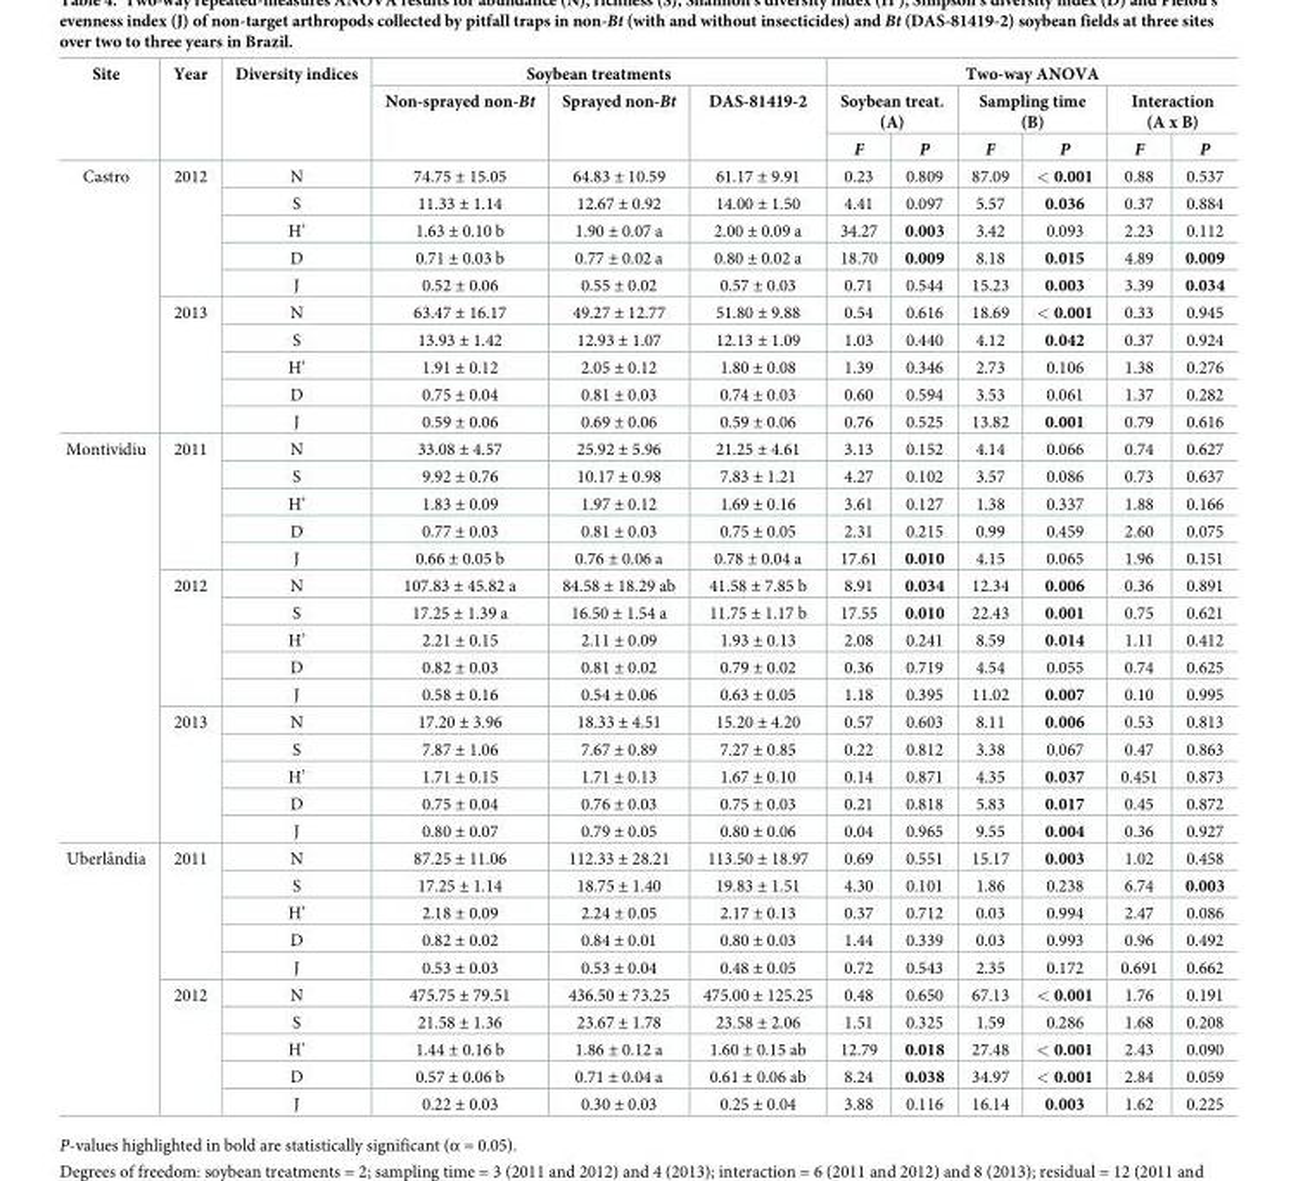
<table><thead><tr><td rowspan="3">Site</td><td rowspan="3">Year</td><td rowspan="3">Diversity indices</td><td colspan="3">Soybean treatments</td><td colspan="6">Two-way ANOVA</td></tr><tr><td rowspan="2">Non-sprayed non-Bt</td><td rowspan="2">Sprayed non-Bt</td><td rowspan="2">DAS-81419-2</td><td colspan="2">Soybean treat. (A)</td><td colspan="2">Sampling time (B)</td><td colspan="2">Interaction (A x B)</td></tr><tr><td>F</td><td>P</td><td>F</td><td>P</td><td>F</td><td>P</td></tr></thead><tbody><tr><td rowspan="10">Castro</td><td rowspan="5">2012</td><td>N</td><td>74.75 ± 15.05</td><td>64.83 ± 10.59</td><td>61.17 ± 9.91</td><td>0.23</td><td>0.809</td><td>87.09</td><td>&lt; 0.001</td><td>0.88</td><td>0.537</td></tr><tr><td>S</td><td>11.33 ± 1.14</td><td>12.67 ± 0.92</td><td>14.00 ± 1.50</td><td>4.41</td><td>0.097</td><td>5.57</td><td>0.036</td><td>0.37</td><td>0.884</td></tr><tr><td>H’</td><td>1.63 ± 0.10 b</td><td>1.90 ± 0.07 a</td><td>2.00 ± 0.09 a</td><td>34.27</td><td>0.003</td><td>3.42</td><td>0.093</td><td>2.23</td><td>0.112</td></tr><tr><td>D</td><td>0.71 ± 0.03 b</td><td>0.77 ± 0.02 a</td><td>0.80 ± 0.02 a</td><td>18.70</td><td>0.009</td><td>8.18</td><td>0.015</td><td>4.89</td><td>0.009</td></tr><tr><td>J</td><td>0.52 ± 0.06</td><td>0.55 ± 0.02</td><td>0.57 ± 0.03</td><td>0.71</td><td>0.544</td><td>15.23</td><td>0.003</td><td>3.39</td><td>0.034</td></tr><tr><td rowspan="5">2013</td><td>N</td><td>63.47 ± 16.17</td><td>49.27 ± 12.77</td><td>51.80 ± 9.88</td><td>0.54</td><td>0.616</td><td>18.69</td><td>&lt; 0.001</td><td>0.33</td><td>0.945</td></tr><tr><td>S</td><td>13.93 ± 1.42</td><td>12.93 ± 1.07</td><td>12.13 ± 1.09</td><td>1.03</td><td>0.440</td><td>4.12</td><td>0.042</td><td>0.37</td><td>0.924</td></tr><tr><td>H’</td><td>1.91 ± 0.12</td><td>2.05 ± 0.12</td><td>1.80 ± 0.08</td><td>1.39</td><td>0.346</td><td>2.73</td><td>0.106</td><td>1.38</td><td>0.276</td></tr><tr><td>D</td><td>0.75 ± 0.04</td><td>0.81 ± 0.03</td><td>0.74 ± 0.03</td><td>0.60</td><td>0.594</td><td>3.53</td><td>0.061</td><td>1.37</td><td>0.282</td></tr><tr><td>J</td><td>0.59 ± 0.06</td><td>0.69 ± 0.06</td><td>0.59 ± 0.06</td><td>0.76</td><td>0.525</td><td>13.82</td><td>0.001</td><td>0.79</td><td>0.616</td></tr><tr><td rowspan="15">Montividiu</td><td rowspan="5">2011</td><td>N</td><td>33.08 ± 4.57</td><td>25.92 ± 5.96</td><td>21.25 ± 4.61</td><td>3.13</td><td>0.152</td><td>4.14</td><td>0.066</td><td>0.74</td><td>0.627</td></tr><tr><td>S</td><td>9.92 ± 0.76</td><td>10.17 ± 0.98</td><td>7.83 ± 1.21</td><td>4.27</td><td>0.102</td><td>3.57</td><td>0.086</td><td>0.73</td><td>0.637</td></tr><tr><td>H’</td><td>1.83 ± 0.09</td><td>1.97 ± 0.12</td><td>1.69 ± 0.16</td><td>3.61</td><td>0.127</td><td>1.38</td><td>0.337</td><td>1.88</td><td>0.166</td></tr><tr><td>D</td><td>0.77 ± 0.03</td><td>0.81 ± 0.03</td><td>0.75 ± 0.05</td><td>2.31</td><td>0.215</td><td>0.99</td><td>0.459</td><td>2.60</td><td>0.075</td></tr><tr><td>J</td><td>0.66 ± 0.05 b</td><td>0.76 ± 0.06 a</td><td>0.78 ± 0.04 a</td><td>17.61</td><td>0.010</td><td>4.15</td><td>0.065</td><td>1.96</td><td>0.151</td></tr><tr><td rowspan="5">2012</td><td>N</td><td>107.83 ± 45.82 a</td><td>84.58 ± 18.29 ab</td><td>41.58 ± 7.85 b</td><td>8.91</td><td>0.034</td><td>12.34</td><td>0.006</td><td>0.36</td><td>0.891</td></tr><tr><td>S</td><td>17.25 ± 1.39 a</td><td>16.50 ± 1.54 a</td><td>11.75 ± 1.17 b</td><td>17.55</td><td>0.010</td><td>22.43</td><td>0.001</td><td>0.75</td><td>0.621</td></tr><tr><td>H’</td><td>2.21 ± 0.15</td><td>2.11 ± 0.09</td><td>1.93 ± 0.13</td><td>2.08</td><td>0.241</td><td>8.59</td><td>0.014</td><td>1.11</td><td>0.412</td></tr><tr><td>D</td><td>0.82 ± 0.03</td><td>0.81 ± 0.02</td><td>0.79 ± 0.02</td><td>0.36</td><td>0.719</td><td>4.54</td><td>0.055</td><td>0.74</td><td>0.625</td></tr><tr><td>J</td><td>0.58 ± 0.16</td><td>0.54 ± 0.06</td><td>0.63 ± 0.05</td><td>1.18</td><td>0.395</td><td>11.02</td><td>0.007</td><td>0.10</td><td>0.995</td></tr><tr><td rowspan="5">2013</td><td>N</td><td>17.20 ± 3.96</td><td>18.33 ± 4.51</td><td>15.20 ± 4.20</td><td>0.57</td><td>0.603</td><td>8.11</td><td>0.006</td><td>0.53</td><td>0.813</td></tr><tr><td>S</td><td>7.87 ± 1.06</td><td>7.67 ± 0.89</td><td>7.27 ± 0.85</td><td>0.22</td><td>0.812</td><td>3.38</td><td>0.067</td><td>0.47</td><td>0.863</td></tr><tr><td>H’</td><td>1.71 ± 0.15</td><td>1.71 ± 0.13</td><td>1.67 ± 0.10</td><td>0.14</td><td>0.871</td><td>4.35</td><td>0.037</td><td>0.451</td><td>0.873</td></tr><tr><td>D</td><td>0.75 ± 0.04</td><td>0.76 ± 0.03</td><td>0.75 ± 0.03</td><td>0.21</td><td>0.818</td><td>5.83</td><td>0.017</td><td>0.45</td><td>0.872</td></tr><tr><td>J</td><td>0.80 ± 0.07</td><td>0.79 ± 0.05</td><td>0.80 ± 0.06</td><td>0.04</td><td>0.965</td><td>9.55</td><td>0.004</td><td>0.36</td><td>0.927</td></tr><tr><td rowspan="10">Uberlaˆndia</td><td rowspan="5">2011</td><td>N</td><td>87.25 ± 11.06</td><td>112.33 ± 28.21</td><td>113.50 ± 18.97</td><td>0.69</td><td>0.551</td><td>15.17</td><td>0.003</td><td>1.02</td><td>0.458</td></tr><tr><td>S</td><td>17.25 ± 1.14</td><td>18.75 ± 1.40</td><td>19.83 ± 1.51</td><td>4.30</td><td>0.101</td><td>1.86</td><td>0.238</td><td>6.74</td><td>0.003</td></tr><tr><td>H’</td><td>2.18 ± 0.09</td><td>2.24 ± 0.05</td><td>2.17 ± 0.13</td><td>0.37</td><td>0.712</td><td>0.03</td><td>0.994</td><td>2.47</td><td>0.086</td></tr><tr><td>D</td><td>0.82 ± 0.02</td><td>0.84 ± 0.01</td><td>0.80 ± 0.03</td><td>1.44</td><td>0.339</td><td>0.03</td><td>0.993</td><td>0.96</td><td>0.492</td></tr><tr><td>J</td><td>0.53 ± 0.03</td><td>0.53 ± 0.04</td><td>0.48 ± 0.05</td><td>0.72</td><td>0.543</td><td>2.35</td><td>0.172</td><td>0.691</td><td>0.662</td></tr><tr><td rowspan="5">2012</td><td>N</td><td>475.75 ± 79.51</td><td>436.50 ± 73.25</td><td>475.00 ± 125.25</td><td>0.48</td><td>0.650</td><td>67.13</td><td>&lt; 0.001</td><td>1.76</td><td>0.191</td></tr><tr><td>S</td><td>21.58 ± 1.36</td><td>23.67 ± 1.78</td><td>23.58 ± 2.06</td><td>1.51</td><td>0.325</td><td>1.59</td><td>0.286</td><td>1.68</td><td>0.208</td></tr><tr><td>H’</td><td>1.44 ± 0.16 b</td><td>1.86 ± 0.12 a</td><td>1.60 ± 0.15 ab</td><td>12.79</td><td>0.018</td><td>27.48</td><td>&lt; 0.001</td><td>2.43</td><td>0.090</td></tr><tr><td>D</td><td>0.57 ± 0.06 b</td><td>0.71 ± 0.04 a</td><td>0.61 ± 0.06 ab</td><td>8.24</td><td>0.038</td><td>34.97</td><td>&lt; 0.001</td><td>2.84</td><td>0.059</td></tr><tr><td>J</td><td>0.22 ± 0.03</td><td>0.30 ± 0.03</td><td>0.25 ± 0.04</td><td>3.88</td><td>0.116</td><td>16.14</td><td>0.003</td><td>1.62</td><td>0.225</td></tr></tbody></table>